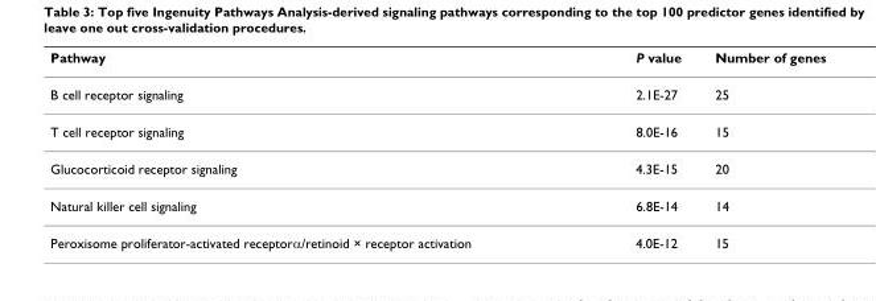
<table><thead><tr><td>Pathway</td><td>P value</td><td>Number of genes</td></tr></thead><tbody><tr><td>B cell receptor signaling</td><td>2.1E-27</td><td>25</td></tr><tr><td>T cell receptor signaling</td><td>8.0E-16</td><td>15</td></tr><tr><td>Glucocorticoid receptor signaling</td><td>4.3E-15</td><td>20</td></tr><tr><td>Natural killer cell signaling</td><td>6.8E-14</td><td>14</td></tr><tr><td>Peroxisome proliferator-activated receptorα/retinoid × receptor activation</td><td>4.0E-12</td><td>15</td></tr></tbody></table>